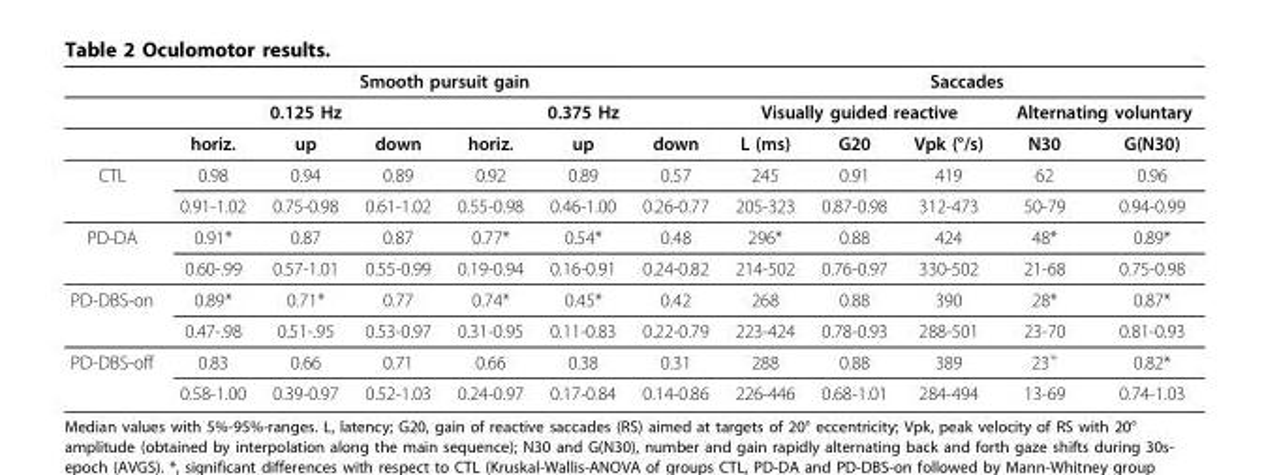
<table><thead><tr><td rowspan="3"></td><td colspan="6">Smooth pursuit gain</td><td colspan="5">Saccades</td></tr><tr><td colspan="3">0.125 Hz</td><td colspan="3">0.375 Hz</td><td colspan="3">Visually guided reactive</td><td colspan="2">Alternating voluntary</td></tr><tr><td>horiz.</td><td>up</td><td>down</td><td>horiz.</td><td>up</td><td>down</td><td>L (ms)</td><td>G20</td><td>Vpk (°/s)</td><td>N30</td><td>G(N30)</td></tr></thead><tbody><tr><td rowspan="2">CTL</td><td>0.98</td><td>0.94</td><td>0.89</td><td>0.92</td><td>0.89</td><td>0.57</td><td>245</td><td>0.91</td><td>419</td><td>62</td><td>0.96</td></tr><tr><td>0.91-1.02</td><td>0.75-0.98</td><td>0.61-1.02</td><td>0.55-0.98</td><td>0.46-1.00</td><td>0.26-0.77</td><td>205-323</td><td>0.87-0.98</td><td>312-473</td><td>50-79</td><td>0.94-0.99</td></tr><tr><td rowspan="2">PD-DA</td><td>0.91*</td><td>0.87</td><td>0.87</td><td>0.77*</td><td>0.54*</td><td>0.48</td><td>296*</td><td>0.88</td><td>424</td><td>48*</td><td>0.89*</td></tr><tr><td>0.60-.99</td><td>0.57-1.01</td><td>0.55-0.99</td><td>0.19-0.94</td><td>0.16-0.91</td><td>0.24-0.82</td><td>214-502</td><td>0.76-0.97</td><td>330-502</td><td>21-68</td><td>0.75-0.98</td></tr><tr><td rowspan="2">PD-DBS-on</td><td>0.89*</td><td>0.71*</td><td>0.77</td><td>0.74*</td><td>0.45*</td><td>0.42</td><td>268</td><td>0.88</td><td>390</td><td>28*</td><td>0.87*</td></tr><tr><td>0.47-.98</td><td>0.51-.95</td><td>0.53-0.97</td><td>0.31-0.95</td><td>0.11-0.83</td><td>0.22-0.79</td><td>223-424</td><td>0.78-0.93</td><td>288-501</td><td>23-70</td><td>0.81-0.93</td></tr><tr><td rowspan="2">PD-DBS-off</td><td>0.83</td><td>0.66</td><td>0.71</td><td>0.66</td><td>0.38</td><td>0.31</td><td>288</td><td>0.88</td><td>389</td><td>23<sup>+</sup></td><td>0.82*</td></tr><tr><td>0.58-1.00</td><td>0.39-0.97</td><td>0.52-1.03</td><td>0.24-0.97</td><td>0.17-0.84</td><td>0.14-0.86</td><td>226-446</td><td>0.68-1.01</td><td>284-494</td><td>13-69</td><td>0.74-1.03</td></tr></tbody></table>